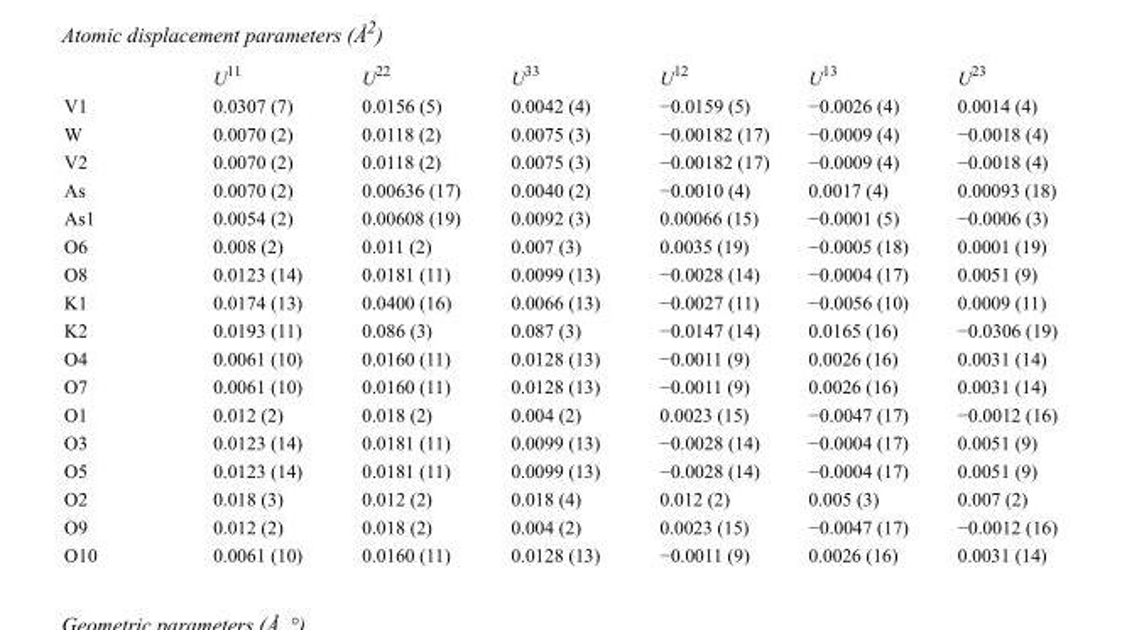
<table><thead><tr><td></td><td>U<sup>11</sup></td><td>U<sup>22</sup></td><td>U<sup>33</sup></td><td>U<sup>12</sup></td><td>U<sup>13</sup></td><td>U<sup>23</sup></td></tr></thead><tbody><tr><td>V1</td><td>0.0307 (7)</td><td>0.0156 (5)</td><td>0.0042 (4)</td><td>−0.0159 (5)</td><td>−0.0026 (4)</td><td>0.0014 (4)</td></tr><tr><td>W</td><td>0.0070 (2)</td><td>0.0118 (2)</td><td>0.0075 (3)</td><td>−0.00182 (17)</td><td>−0.0009 (4)</td><td>−0.0018 (4)</td></tr><tr><td>V2</td><td>0.0070 (2)</td><td>0.0118 (2)</td><td>0.0075 (3)</td><td>−0.00182 (17)</td><td>−0.0009 (4)</td><td>−0.0018 (4)</td></tr><tr><td>As</td><td>0.0070 (2)</td><td>0.00636 (17)</td><td>0.0040 (2)</td><td>−0.0010 (4)</td><td>0.0017 (4)</td><td>0.00093 (18)</td></tr><tr><td>As1</td><td>0.0054 (2)</td><td>0.00608 (19)</td><td>0.0092 (3)</td><td>0.00066 (15)</td><td>−0.0001 (5)</td><td>−0.0006 (3)</td></tr><tr><td>O6</td><td>0.008 (2)</td><td>0.011 (2)</td><td>0.007 (3)</td><td>0.0035 (19)</td><td>−0.0005 (18)</td><td>0.0001 (19)</td></tr><tr><td>O8</td><td>0.0123 (14)</td><td>0.0181 (11)</td><td>0.0099 (13)</td><td>−0.0028 (14)</td><td>−0.0004 (17)</td><td>0.0051 (9)</td></tr><tr><td>K1</td><td>0.0174 (13)</td><td>0.0400 (16)</td><td>0.0066 (13)</td><td>−0.0027 (11)</td><td>−0.0056 (10)</td><td>0.0009 (11)</td></tr><tr><td>K2</td><td>0.0193 (11)</td><td>0.086 (3)</td><td>0.087 (3)</td><td>−0.0147 (14)</td><td>0.0165 (16)</td><td>−0.0306 (19)</td></tr><tr><td>O4</td><td>0.0061 (10)</td><td>0.0160 (11)</td><td>0.0128 (13)</td><td>−0.0011 (9)</td><td>0.0026 (16)</td><td>0.0031 (14)</td></tr><tr><td>O7</td><td>0.0061 (10)</td><td>0.0160 (11)</td><td>0.0128 (13)</td><td>−0.0011 (9)</td><td>0.0026 (16)</td><td>0.0031 (14)</td></tr><tr><td>O1</td><td>0.012 (2)</td><td>0.018 (2)</td><td>0.004 (2)</td><td>0.0023 (15)</td><td>−0.0047 (17)</td><td>−0.0012 (16)</td></tr><tr><td>O3</td><td>0.0123 (14)</td><td>0.0181 (11)</td><td>0.0099 (13)</td><td>−0.0028 (14)</td><td>−0.0004 (17)</td><td>0.0051 (9)</td></tr><tr><td>O5</td><td>0.0123 (14)</td><td>0.0181 (11)</td><td>0.0099 (13)</td><td>−0.0028 (14)</td><td>−0.0004 (17)</td><td>0.0051 (9)</td></tr><tr><td>O2</td><td>0.018 (3)</td><td>0.012 (2)</td><td>0.018 (4)</td><td>0.012 (2)</td><td>0.005 (3)</td><td>0.007 (2)</td></tr><tr><td>O9</td><td>0.012 (2)</td><td>0.018 (2)</td><td>0.004 (2)</td><td>0.0023 (15)</td><td>−0.0047 (17)</td><td>−0.0012 (16)</td></tr><tr><td>O10</td><td>0.0061 (10)</td><td>0.0160 (11)</td><td>0.0128 (13)</td><td>−0.0011 (9)</td><td>0.0026 (16)</td><td>0.0031 (14)</td></tr></tbody></table>